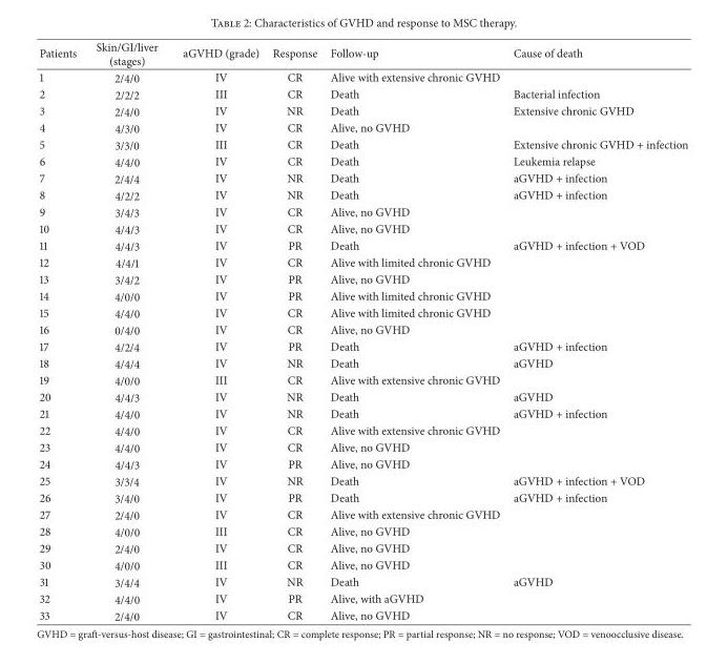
<table><thead><tr><td>Patients</td><td>Skin/GI/liver (stages)</td><td>aGVHD (grade)</td><td>Response</td><td>Follow-up</td><td>Cause of death</td></tr></thead><tbody><tr><td>1</td><td>2/4/0</td><td>IV</td><td>CR</td><td>Alive with extensive chronic GVHD</td><td></td></tr><tr><td>2</td><td>2/2/2</td><td>III</td><td>CR</td><td>Death</td><td>Bacterial infection</td></tr><tr><td>3</td><td>2/4/0</td><td>IV</td><td>NR</td><td>Death</td><td>Extensive chronic GVHD</td></tr><tr><td>4</td><td>4/3/0</td><td>IV</td><td>CR</td><td>Alive, no GVHD</td><td></td></tr><tr><td>5</td><td>3/3/0</td><td>III</td><td>CR</td><td>Death</td><td>Extensive chronic GVHD + infection</td></tr><tr><td>6</td><td>4/4/0</td><td>IV</td><td>CR</td><td>Death</td><td>Leukemia relapse</td></tr><tr><td>7</td><td>2/4/4</td><td>IV</td><td>NR</td><td>Death</td><td>aGVHD + infection</td></tr><tr><td>8</td><td>4/2/2</td><td>IV</td><td>NR</td><td>Death</td><td>aGVHD + infection</td></tr><tr><td>9</td><td>3/4/3</td><td>IV</td><td>CR</td><td>Alive, no GVHD</td><td></td></tr><tr><td>10</td><td>4/4/3</td><td>IV</td><td>CR</td><td>Alive, no GVHD</td><td></td></tr><tr><td>11</td><td>4/4/3</td><td>IV</td><td>PR</td><td>Death</td><td>aGVHD + infection + VOD</td></tr><tr><td>12</td><td>4/4/1</td><td>IV</td><td>CR</td><td>Alive with limited chronic GVHD</td><td></td></tr><tr><td>13</td><td>3/4/2</td><td>IV</td><td>PR</td><td>Alive, no GVHD</td><td></td></tr><tr><td>14</td><td>4/0/0</td><td>IV</td><td>PR</td><td>Alive with limited chronic GVHD</td><td></td></tr><tr><td>15</td><td>4/4/0</td><td>IV</td><td>CR</td><td>Alive with limited chronic GVHD</td><td></td></tr><tr><td>16</td><td>0/4/0</td><td>IV</td><td>CR</td><td>Alive, no GVHD</td><td></td></tr><tr><td>17</td><td>4/2/4</td><td>IV</td><td>PR</td><td>Death</td><td>aGVHD + infection</td></tr><tr><td>18</td><td>4/4/4</td><td>IV</td><td>NR</td><td>Death</td><td>aGVHD</td></tr><tr><td>19</td><td>4/0/0</td><td>III</td><td>CR</td><td>Alive with extensive chronic GVHD</td><td></td></tr><tr><td>20</td><td>4/4/3</td><td>IV</td><td>NR</td><td>Death</td><td>aGVHD</td></tr><tr><td>21</td><td>4/4/0</td><td>IV</td><td>NR</td><td>Death</td><td>aGVHD + infection</td></tr><tr><td>22</td><td>4/4/0</td><td>IV</td><td>CR</td><td>Alive with extensive chronic GVHD</td><td></td></tr><tr><td>23</td><td>4/4/0</td><td>IV</td><td>CR</td><td>Alive, no GVHD</td><td></td></tr><tr><td>24</td><td>4/4/3</td><td>IV</td><td>PR</td><td>Alive, no GVHD</td><td></td></tr><tr><td>25</td><td>3/3/4</td><td>IV</td><td>NR</td><td>Death</td><td>aGVHD + infection + VOD</td></tr><tr><td>26</td><td>3/4/0</td><td>IV</td><td>PR</td><td>Death</td><td>aGVHD + infection</td></tr><tr><td>27</td><td>2/4/0</td><td>IV</td><td>CR</td><td>Alive with extensive chronic GVHD</td><td></td></tr><tr><td>28</td><td>4/0/0</td><td>III</td><td>CR</td><td>Alive, no GVHD</td><td></td></tr><tr><td>29</td><td>2/4/0</td><td>IV</td><td>CR</td><td>Alive, no GVHD</td><td></td></tr><tr><td>30</td><td>4/0/0</td><td>III</td><td>CR</td><td>Alive, no GVHD</td><td></td></tr><tr><td>31</td><td>3/4/4</td><td>IV</td><td>NR</td><td>Death</td><td>aGVHD</td></tr><tr><td>32</td><td>4/4/0</td><td>IV</td><td>PR</td><td>Alive, with aGVHD</td><td></td></tr><tr><td>33</td><td>2/4/0</td><td>IV</td><td>CR</td><td>Alive, no GVHD</td><td></td></tr></tbody></table>